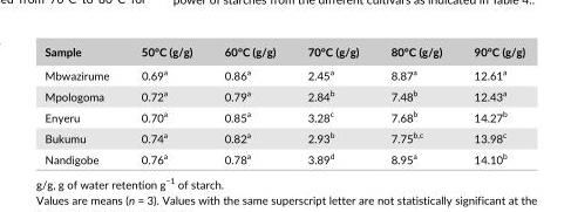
<table><thead><tr><td>Sample</td><td>50°C (g/g)</td><td>60°C (g/g)</td><td>70°C (g/g)</td><td>80°C (g/g)</td><td>90°C (g/g)</td></tr></thead><tbody><tr><td>Mbwazirume</td><td>0.69<sup>a</sup></td><td>0.86<sup>a</sup></td><td>2.45<sup>a</sup></td><td>8.87<sup>a</sup></td><td>12.61<sup>a</sup></td></tr><tr><td>Mpologoma</td><td>0.72<sup>a</sup></td><td>0.79<sup>a</sup></td><td>2.84<sup>b</sup></td><td>7.48<sup>b</sup></td><td>12.43<sup>a</sup></td></tr><tr><td>Enyeru</td><td>0.70<sup>a</sup></td><td>0.85<sup>a</sup></td><td>3.28<sup>c</sup></td><td>7.68<sup>b</sup></td><td>14.27<sup>b</sup></td></tr><tr><td>Bukumu</td><td>0.74<sup>a</sup></td><td>0.82<sup>a</sup></td><td>2.93<sup>b</sup></td><td>7.75<sup>b,c</sup></td><td>13.98<sup>c</sup></td></tr><tr><td>Nandigobe</td><td>0.76<sup>a</sup></td><td>0.78<sup>a</sup></td><td>3.89<sup>d</sup></td><td>8.95<sup>a</sup></td><td>14.10<sup>b</sup></td></tr></tbody></table>